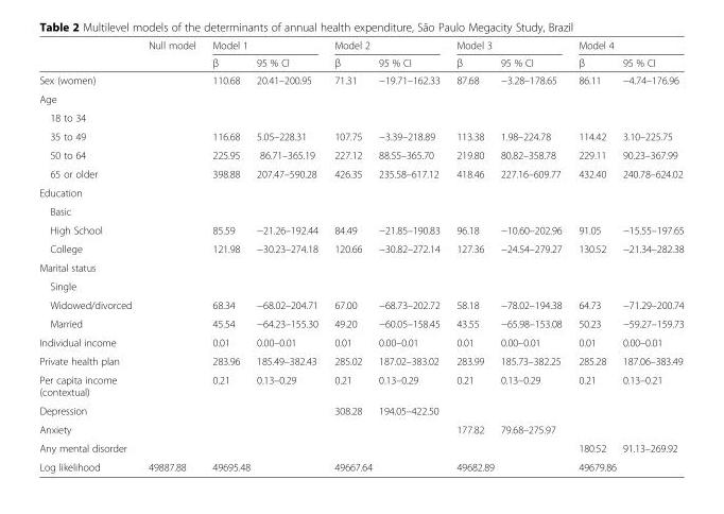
<table><thead><tr><td rowspan="2"></td><td rowspan="2">Null model</td><td colspan="2">Model 1</td><td colspan="2">Model 2</td><td colspan="2">Model 3</td><td colspan="2">Model 4</td></tr><tr><td>β</td><td>95 % CI</td><td>β</td><td>95 % CI</td><td>β</td><td>95 % CI</td><td>β</td><td>95 % CI</td></tr></thead><tbody><tr><td>Sex (women)</td><td></td><td>110.68</td><td>20.41–200.95</td><td>71.31</td><td>−19.71–162.33</td><td>87.68</td><td>−3.28–178.65</td><td>86.11</td><td>−4.74–176.96</td></tr><tr><td colspan="10">Age</td></tr><tr><td colspan="10">18 to 34</td></tr><tr><td>35 to 49</td><td></td><td>116.68</td><td>5.05–228.31</td><td>107.75</td><td>−3.39–218.89</td><td>113.38</td><td>1.98–224.78</td><td>114.42</td><td>3.10–225.75</td></tr><tr><td>50 to 64</td><td></td><td>225.95</td><td>86.71–365.19</td><td>227.12</td><td>88.55–365.70</td><td>219.80</td><td>80.82–358.78</td><td>229.11</td><td>90.23–367.99</td></tr><tr><td>65 or older</td><td></td><td>398.88</td><td>207.47–590.28</td><td>426.35</td><td>235.58–617.12</td><td>418.46</td><td>227.16–609.77</td><td>432.40</td><td>240.78–624.02</td></tr><tr><td colspan="10">Education</td></tr><tr><td colspan="10">Basic</td></tr><tr><td>High School</td><td></td><td>85.59</td><td>−21.26–192.44</td><td>84.49</td><td>−21.85–190.83</td><td>96.18</td><td>−10.60–202.96</td><td>91.05</td><td>−15.55–197.65</td></tr><tr><td>College</td><td></td><td>121.98</td><td>−30.23–274.18</td><td>120.66</td><td>−30.82–272.14</td><td>127.36</td><td>−24.54–279.27</td><td>130.52</td><td>−21.34–282.38</td></tr><tr><td colspan="10">Marital status</td></tr><tr><td colspan="10">Single</td></tr><tr><td>Widowed/divorced</td><td></td><td>68.34</td><td>−68.02–204.71</td><td>67.00</td><td>−68.73–202.72</td><td>58.18</td><td>−78.02–194.38</td><td>64.73</td><td>−71.29–200.74</td></tr><tr><td>Married</td><td></td><td>45.54</td><td>−64.23–155.30</td><td>49.20</td><td>−60.05–158.45</td><td>43.55</td><td>−65.98–153.08</td><td>50.23</td><td>−59.27–159.73</td></tr><tr><td>Individual income</td><td></td><td>0.01</td><td>0.00–0.01</td><td>0.01</td><td>0.00–0.01</td><td>0.01</td><td>0.00–0.01</td><td>0.01</td><td>0.00–0.01</td></tr><tr><td>Private health plan</td><td></td><td>283.96</td><td>185.49–382.43</td><td>285.02</td><td>187.02–383.02</td><td>283.99</td><td>185.73–382.25</td><td>285.28</td><td>187.06–383.49</td></tr><tr><td>Per capita income (contextual)</td><td></td><td>0.21</td><td>0.13–0.29</td><td>0.21</td><td>0.13–0.29</td><td>0.21</td><td>0.13–0.29</td><td>0.21</td><td>0.13–0.21</td></tr><tr><td>Depression</td><td></td><td></td><td></td><td>308.28</td><td>194.05–422.50</td><td></td><td></td><td></td><td></td></tr><tr><td>Anxiety</td><td></td><td></td><td></td><td></td><td></td><td>177.82</td><td>79.68–275.97</td><td></td><td></td></tr><tr><td>Any mental disorder</td><td></td><td></td><td></td><td></td><td></td><td></td><td></td><td>180.52</td><td>91.13–269.92</td></tr><tr><td>Log likelihood</td><td>49887.88</td><td colspan="2">49695.48</td><td colspan="2">49667.64</td><td colspan="2">49682.89</td><td colspan="2">49679.86</td></tr></tbody></table>